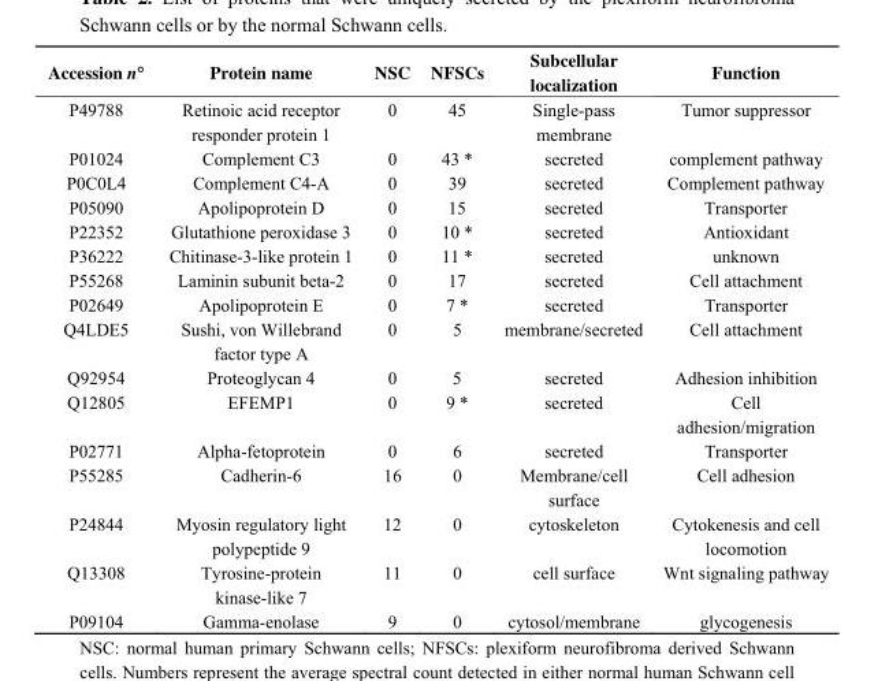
<table><thead><tr><td>Accession n°</td><td>Protein name</td><td>NSC</td><td>NFSCs</td><td>Subcellular localization</td><td>Function</td></tr></thead><tbody><tr><td>P49788</td><td>Retinoic acid receptor responder protein 1</td><td>0</td><td>45</td><td>Single-pass membrane</td><td>Tumor suppressor</td></tr><tr><td>P01024</td><td>Complement C3</td><td>0</td><td>43 *</td><td>secreted</td><td>complement pathway</td></tr><tr><td>P0C0L4</td><td>Complement C4-A</td><td>0</td><td>39</td><td>secreted</td><td>Complement pathway</td></tr><tr><td>P05090</td><td>Apolipoprotein D</td><td>0</td><td>15</td><td>secreted</td><td>Transporter</td></tr><tr><td>P22352</td><td>Glutathione peroxidase 3</td><td>0</td><td>10 *</td><td>secreted</td><td>Antioxidant</td></tr><tr><td>P36222</td><td>Chitinase-3-like protein 1</td><td>0</td><td>11 *</td><td>secreted</td><td>unknown</td></tr><tr><td>P55268</td><td>Laminin subunit beta-2</td><td>0</td><td>17</td><td>secreted</td><td>Cell attachment</td></tr><tr><td>P02649</td><td>Apolipoprotein E</td><td>0</td><td>7 *</td><td>secreted</td><td>Transporter</td></tr><tr><td>Q4LDE5</td><td>Sushi, von Willebrand factor type A</td><td>0</td><td>5</td><td>membrane/secreted</td><td>Cell attachment</td></tr><tr><td>Q92954</td><td>Proteoglycan 4</td><td>0</td><td>5</td><td>secreted</td><td>Adhesion inhibition</td></tr><tr><td>Q12805</td><td>EFEMP1</td><td>0</td><td>9 *</td><td>secreted</td><td>Cell adhesion/migration</td></tr><tr><td>P02771</td><td>Alpha-fetoprotein</td><td>0</td><td>6</td><td>secreted</td><td>Transporter</td></tr><tr><td>P55285</td><td>Cadherin-6</td><td>16</td><td>0</td><td>Membrane/cell surface</td><td>Cell adhesion</td></tr><tr><td>P24844</td><td>Myosin regulatory light polypeptide 9</td><td>12</td><td>0</td><td>cytoskeleton</td><td>Cytokenesis and cell locomotion</td></tr><tr><td>Q13308</td><td>Tyrosine-protein kinase-like 7</td><td>11</td><td>0</td><td>cell surface</td><td>Wnt signaling pathway</td></tr><tr><td>P09104</td><td>Gamma-enolase</td><td>9</td><td>0</td><td>cytosol/membrane</td><td>glycogenesis</td></tr></tbody></table>